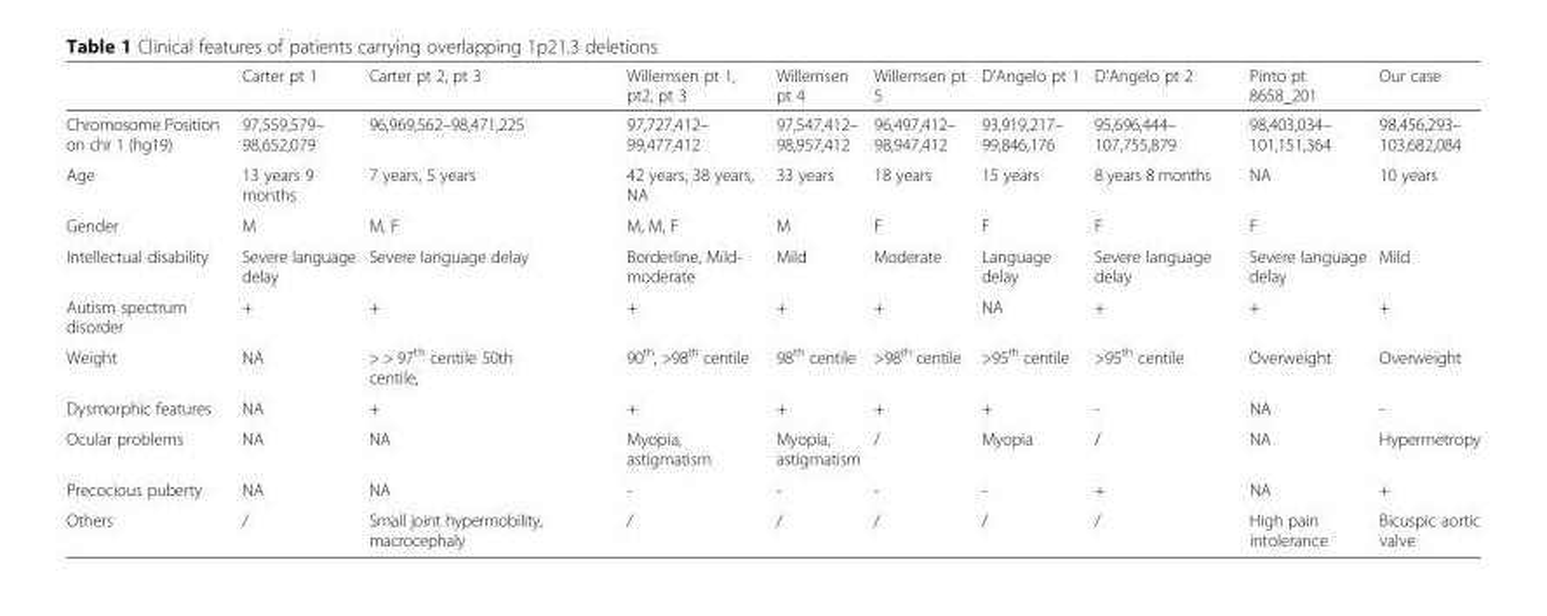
<table><thead><tr><td></td><td>Carter pt 1</td><td>Carter pt 2, pt 3</td><td>Willemsen pt 1, pt2, pt 3</td><td>Willemsen pt 4</td><td>Willemsen pt 5</td><td>D’Angelo pt 1</td><td>D’Angelo pt 2</td><td>Pinto pt 8658_201</td><td>Our case</td></tr></thead><tbody><tr><td>Chromosome Position on chr 1 (hg19)</td><td>97,559,579– 98,652,079</td><td>96,969,562–98,471,225</td><td>97,727,412– 99,477,412</td><td>97,547,412– 98,957,412</td><td>96,497,412– 98,947,412</td><td>93,919,217– 99,846,176</td><td>95,696,444– 107,755,879</td><td>98,403,034– 101,151,364</td><td>98,456,293– 103,682,084</td></tr><tr><td>Age</td><td>13 years 9 months</td><td>7 years, 5 years</td><td>42 years, 38 years, NA</td><td>33 years</td><td>18 years</td><td>15 years</td><td>8 years 8 months</td><td>NA</td><td>10 years</td></tr><tr><td>Gender</td><td>M</td><td>M, F</td><td>M, M, F</td><td>M</td><td>F</td><td>F</td><td>F</td><td>F</td><td></td></tr><tr><td>Intellectual disability</td><td>Severe language delay</td><td>Severe language delay</td><td>Borderline, Mild- moderate</td><td>Mild</td><td>Moderate</td><td>Language delay</td><td>Severe language delay</td><td>Severe language delay</td><td>Mild</td></tr><tr><td>Autism spectrum disorder</td><td>+</td><td>+</td><td>+</td><td>+</td><td>+</td><td>NA</td><td>+</td><td>+</td><td>+</td></tr><tr><td>Weight</td><td>NA</td><td>&gt; &gt; 97<sup>th</sup> centile 50th centile,</td><td>90<sup>th</sup>, &gt;98<sup>th</sup> centile</td><td>98<sup>th</sup> centile</td><td>&gt;98<sup>th</sup> centile</td><td>&gt;95<sup>th</sup> centile</td><td>&gt;95<sup>th</sup> centile</td><td>Overweight</td><td>Overweight</td></tr><tr><td>Dysmorphic features</td><td>NA</td><td>+</td><td>+</td><td>+</td><td>+</td><td>+</td><td>-</td><td>NA</td><td>-</td></tr><tr><td>Ocular problems</td><td>NA</td><td>NA</td><td>Myopia, astigmatism</td><td>Myopia, astigmatism</td><td>/</td><td>Myopia</td><td>/</td><td>NA</td><td>Hypermetropy</td></tr><tr><td>Precocious puberty</td><td>NA</td><td>NA</td><td>-</td><td>-</td><td>-</td><td>-</td><td>+</td><td>NA</td><td>+</td></tr><tr><td>Others</td><td>/</td><td>Small joint hypermobility, macrocephaly</td><td>/</td><td>/</td><td>/</td><td>/</td><td>/</td><td>High pain intolerance</td><td>Bicuspic aortic valve</td></tr></tbody></table>